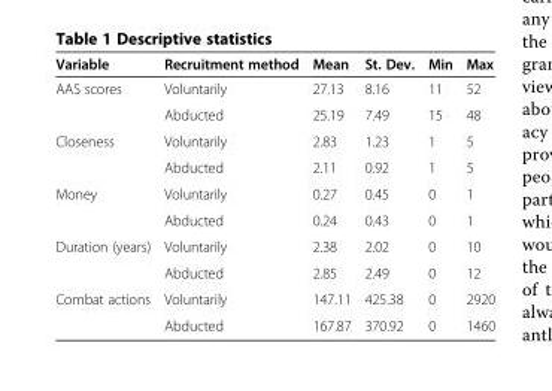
<table><thead><tr><td>Variable</td><td>Recruitment method</td><td>Mean</td><td>St. Dev.</td><td>Min</td><td>Max</td></tr></thead><tbody><tr><td rowspan="2">AAS scores</td><td>Voluntarily</td><td>27.13</td><td>8.16</td><td>11</td><td>52</td></tr><tr><td>Abducted</td><td>25.19</td><td>7.49</td><td>15</td><td>48</td></tr><tr><td rowspan="2">Closeness</td><td>Voluntarily</td><td>2.83</td><td>1.23</td><td>1</td><td>5</td></tr><tr><td>Abducted</td><td>2.11</td><td>0.92</td><td>1</td><td>5</td></tr><tr><td rowspan="2">Money</td><td>Voluntarily</td><td>0.27</td><td>0.45</td><td>0</td><td>1</td></tr><tr><td>Abducted</td><td>0.24</td><td>0.43</td><td>0</td><td>1</td></tr><tr><td rowspan="2">Duration (years)</td><td>Voluntarily</td><td>2.38</td><td>2.02</td><td>0</td><td>10</td></tr><tr><td>Abducted</td><td>2.85</td><td>2.49</td><td>0</td><td>12</td></tr><tr><td rowspan="2">Combat actions</td><td>Voluntarily</td><td>147.11</td><td>425.38</td><td>0</td><td>2920</td></tr><tr><td>Abducted</td><td>167.87</td><td>370.92</td><td>0</td><td>1460</td></tr></tbody></table>